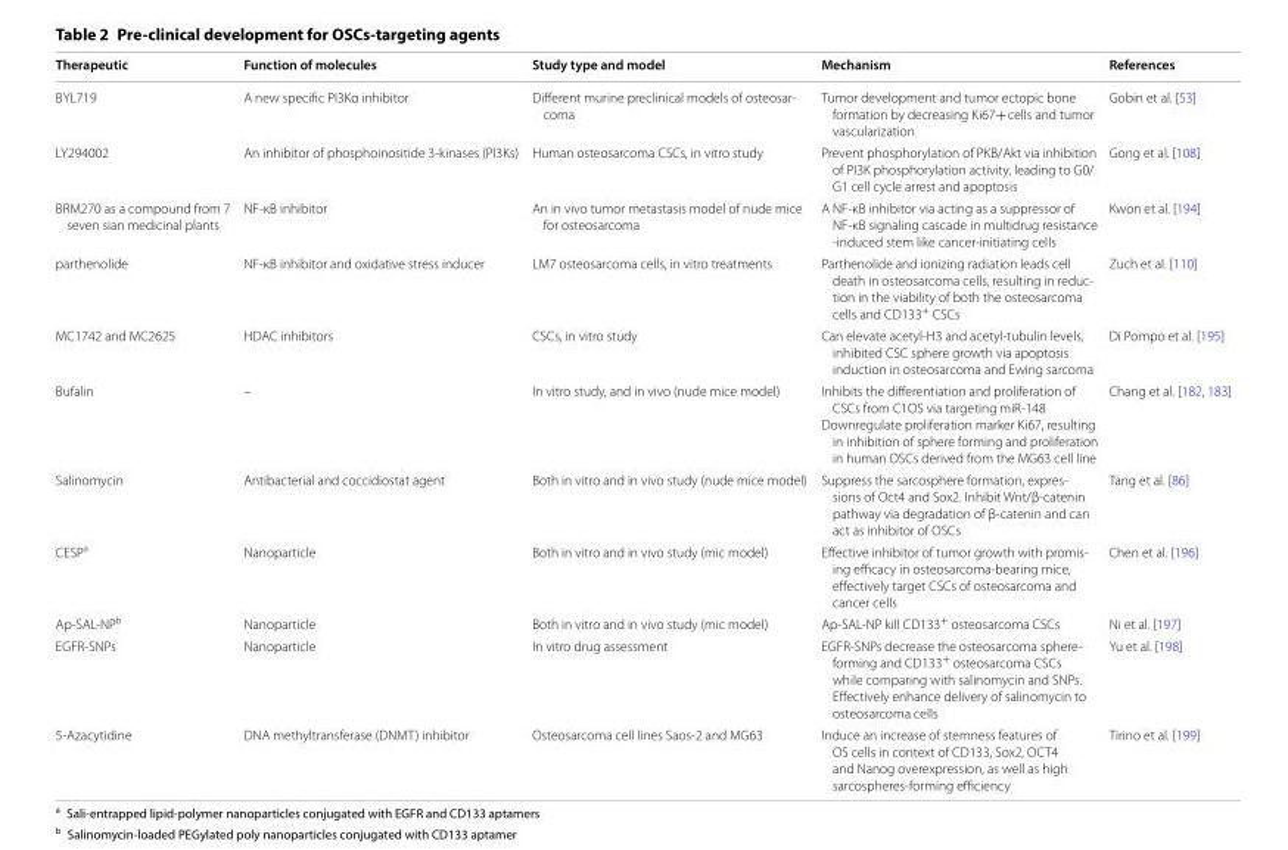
<table><thead><tr><td>Therapeutic</td><td>Function of molecules</td><td>Study type and model</td><td>Mechanism</td><td>References</td></tr></thead><tbody><tr><td>BYL719</td><td>A new specific PI3Kα inhibitor</td><td>Different murine preclinical models of osteosar- coma</td><td>Tumor development and tumor ectopic bone formation by decreasing Ki67+ cells and tumor vascularization</td><td>Gobin et al. [53]</td></tr><tr><td>LY294002</td><td>An inhibitor of phosphoinositide 3-kinases (PI3Ks)</td><td>Human osteosarcoma CSCs, in vitro study</td><td>Prevent phosphorylation of PKB/Akt via inhibition of PI3K phosphorylation activity, leading to G0/ G1 cell cycle arrest and apoptosis</td><td>Gong et al. [108]</td></tr><tr><td>BRM270 as a compound from 7 seven sian medicinal plants</td><td>NF-κB inhibitor</td><td>An in vivo tumor metastasis model of nude mice for osteosarcoma</td><td>A NF-κB inhibitor via acting as a suppressor of NF-κB signaling cascade in multidrug resistance -induced stem like cancer-initiating cells</td><td>Kwon et al. [194]</td></tr><tr><td>parthenolide</td><td>NF-κB inhibitor and oxidative stress inducer</td><td>LM7 osteosarcoma cells, in vitro treatments</td><td>Parthenolide and ionizing radiation leads cell death in osteosarcoma cells, resulting in reduc- tion in the viability of both the osteosarcoma cells and CD133+ CSCs</td><td>Zuch et al. [110]</td></tr><tr><td>MC1742 and MC2625</td><td>HDAC inhibitors</td><td>CSCs, in vitro study</td><td>Can elevate acetyl-H3 and acetyl-tubulin levels, inhibited CSC sphere growth via apoptosis induction in osteosarcoma and Ewing sarcoma</td><td>Di Pompo et al. [195]</td></tr><tr><td>Bufalin</td><td>–</td><td>In vitro study, and in vivo (nude mice model)</td><td>Inhibits the differentiation and proliferation of CSCs from C1OS via targeting miR-148 Downregulate proliferation marker Ki67, resulting in inhibition of sphere forming and proliferation in human OSCs derived from the MG63 cell line</td><td>Chang et al. [182, 183]</td></tr><tr><td>Salinomycin</td><td>Antibacterial and coccidiostat agent</td><td>Both in vitro and in vivo study (nude mice model)</td><td>Suppress the sarcosphere formation, expres- sions of Oct4 and Sox2. Inhibit Wnt/β-catenin pathway via degradation of β-catenin and can act as inhibitor of OSCs</td><td>Tang et al. [86]</td></tr><tr><td>CESP<sup>a</sup></td><td>Nanoparticle</td><td>Both in vitro and in vivo study (mic model)</td><td>Effective inhibitor of tumor growth with promis- ing efficacy in osteosarcoma-bearing mice, effectively target CSCs of osteosarcoma and cancer cells</td><td>Chen et al. [196]</td></tr><tr><td>Ap-SAL-NP<sup>b</sup></td><td>Nanoparticle</td><td>Both in vitro and in vivo study (mic model)</td><td>Ap-SAL-NP kill CD133<sup>+</sup> osteosarcoma CSCs</td><td>Ni et al. [197]</td></tr><tr><td>EGFR-SNPs</td><td>Nanoparticle</td><td>In vitro drug assessment</td><td>EGFR-SNPs decrease the osteosarcoma sphere- forming and CD133<sup>+</sup> osteosarcoma CSCs while comparing with salinomycin and SNPs. Effectively enhance delivery of salinomycin to osteosarcoma cells</td><td>Yu et al. [198]</td></tr><tr><td>5-Azacytidine</td><td>DNA methyltransferase (DNMT) inhibitor</td><td>Osteosarcoma cell lines Saos-2 and MG63</td><td>Induce an increase of stemness features of OS cells in context of CD133, Sox2, OCT4 and Nanog overexpression, as well as high sarcospheres-forming efficiency</td><td>Tirino et al. [199]</td></tr></tbody></table>